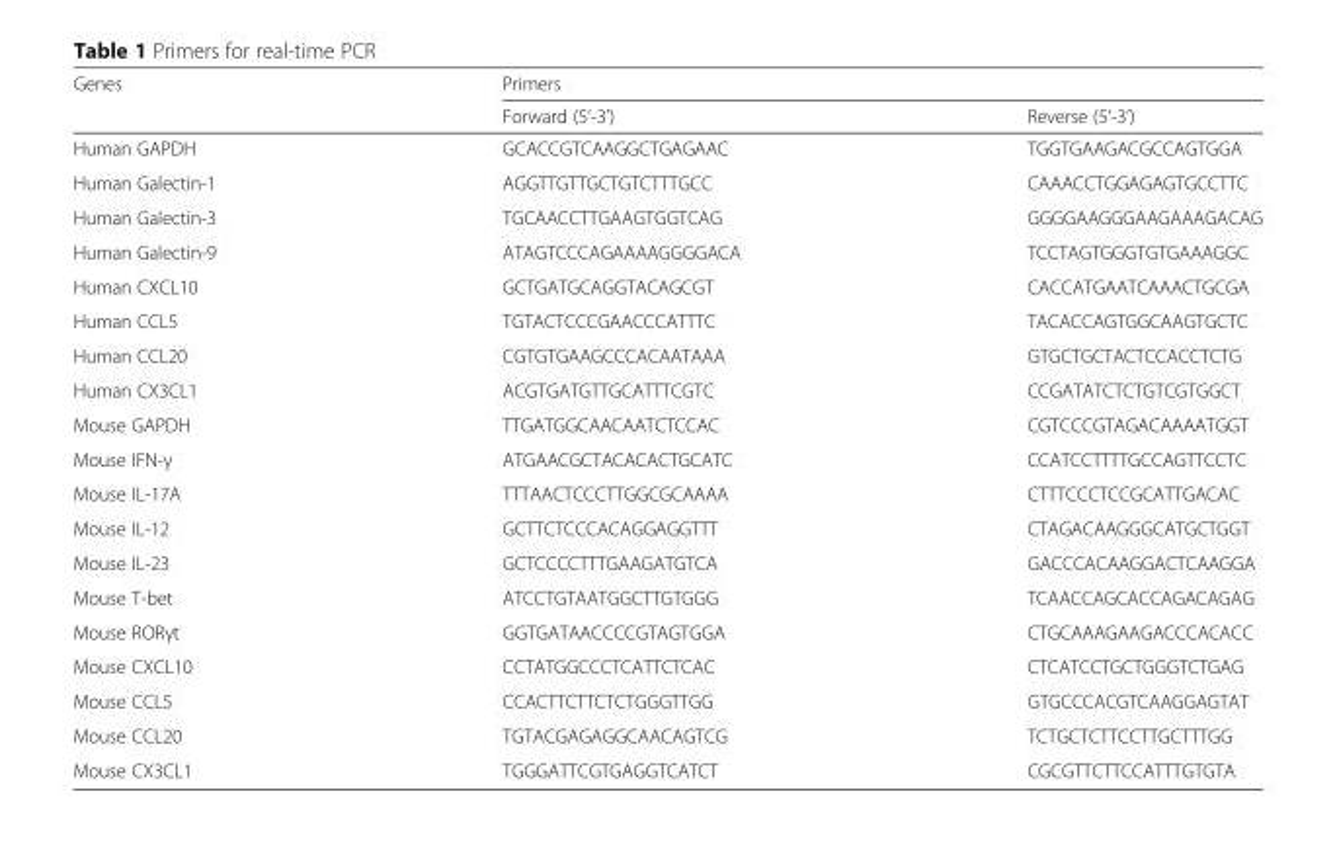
<table><thead><tr><td rowspan="2">Genes</td><td colspan="2">Primers</td></tr><tr><td>Forward (5‘-3’)</td><td>Reverse (5‘-3’)</td></tr></thead><tbody><tr><td>Human GAPDH</td><td>GCACCGTCAAGGCTGAGAAC</td><td>TGGTGAAGACGCCAGTGGA</td></tr><tr><td>Human Galectin-1</td><td>AGGTTGTTGCTGTCTTTGCC</td><td>CAAACCTGGAGAGTGCCTTC</td></tr><tr><td>Human Galectin-3</td><td>TGCAACCTTGAAGTGGTCAG</td><td>GGGGAAGGGAAGAAAGACAG</td></tr><tr><td>Human Galectin-9</td><td>ATAGTCCCAGAAAAGGGGACA</td><td>TCCTAGTGGGTGTGAAAGGC</td></tr><tr><td>Human CXCL10</td><td>GCTGATGCAGGTACAGCGT</td><td>CACCATGAATCAAACTGCGA</td></tr><tr><td>Human CCL5</td><td>TGTACTCCCGAACCCATTTC</td><td>TACACCAGTGGCAAGTGCTC</td></tr><tr><td>Human CCL20</td><td>CGTGTGAAGCCCACAATAAA</td><td>GTGCTGCTACTCCACCTCTG</td></tr><tr><td>Human CX3CL1</td><td>ACGTGATGTTGCATTTCGTC</td><td>CCGATATCTCTGTCGTGGCT</td></tr><tr><td>Mouse GAPDH</td><td>TTGATGGCAACAATCTCCAC</td><td>CGTCCCGTAGACAAAATGGT</td></tr><tr><td>Mouse IFN-γ</td><td>ATGAACGCTACACACTGCATC</td><td>CCATCCTTTTGCCAGTTCCTC</td></tr><tr><td>Mouse IL-17A</td><td>TTTAACTCCCTTGGCGCAAAA</td><td>CTTTCCCTCCGCATTGACAC</td></tr><tr><td>Mouse IL-12</td><td>GCTTCTCCCACAGGAGGTTT</td><td>CTAGACAAGGGCATGCTGGT</td></tr><tr><td>Mouse IL-23</td><td>GCTCCCCTTTGAAGATGTCA</td><td>GACCCACAAGGACTCAAGGA</td></tr><tr><td>Mouse T-bet</td><td>ATCCTGTAATGGCTTGTGGG</td><td>TCAACCAGCACCAGACAGAG</td></tr><tr><td>Mouse RORγt</td><td>GGTGATAACCCCGTAGTGGA</td><td>CTGCAAAGAAGACCCACACC</td></tr><tr><td>Mouse CXCL10</td><td>CCTATGGCCCTCATTCTCAC</td><td>CTCATCCTGCTGGGTCTGAG</td></tr><tr><td>Mouse CCL5</td><td>CCACTTCTTCTCTGGGTTGG</td><td>GTGCCCACGTCAAGGAGTAT</td></tr><tr><td>Mouse CCL20</td><td>TGTACGAGAGGCAACAGTCG</td><td>TCTGCTCTTCCTTGCTTTGG</td></tr><tr><td>Mouse CX3CL1</td><td>TGGGATTCGTGAGGTCATCT</td><td>CGCGTTCTTCCATTTGTGTA</td></tr></tbody></table>